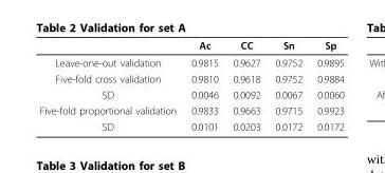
<table><thead><tr><td></td><td>Ac</td><td>CC</td><td>Sn</td><td>Sp</td></tr></thead><tbody><tr><td>Leave-one-out validation</td><td>0.9815</td><td>0.9627</td><td>0.9752</td><td>0.9895</td></tr><tr><td>Five-fold cross validation</td><td>0.9810</td><td>0.9618</td><td>0.9752</td><td>0.9884</td></tr><tr><td>SD</td><td>0.0046</td><td>0.0092</td><td>0.0067</td><td>0.0060</td></tr><tr><td>Five-fold proportional validation</td><td>0.9833</td><td>0.9663</td><td>0.9715</td><td>0.9923</td></tr><tr><td>SD</td><td>0.0101</td><td>0.0203</td><td>0.0172</td><td>0.0172</td></tr></tbody></table>